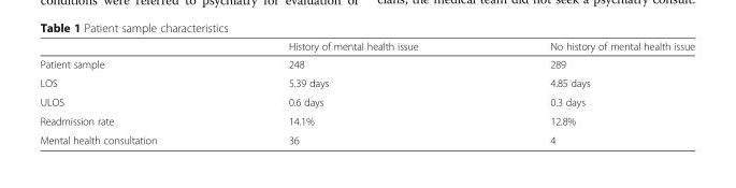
<table><thead><tr><td></td><td>History of mental health issue</td><td>No history of mental health issue</td></tr></thead><tbody><tr><td>Patient sample</td><td>248</td><td>289</td></tr><tr><td>LOS</td><td>5.39 days</td><td>4.85 days</td></tr><tr><td>ULOS</td><td>0.6 days</td><td>0.3 days</td></tr><tr><td>Readmission rate</td><td>14.1%</td><td>12.8%</td></tr><tr><td>Mental health consultation</td><td>36</td><td>4</td></tr></tbody></table>